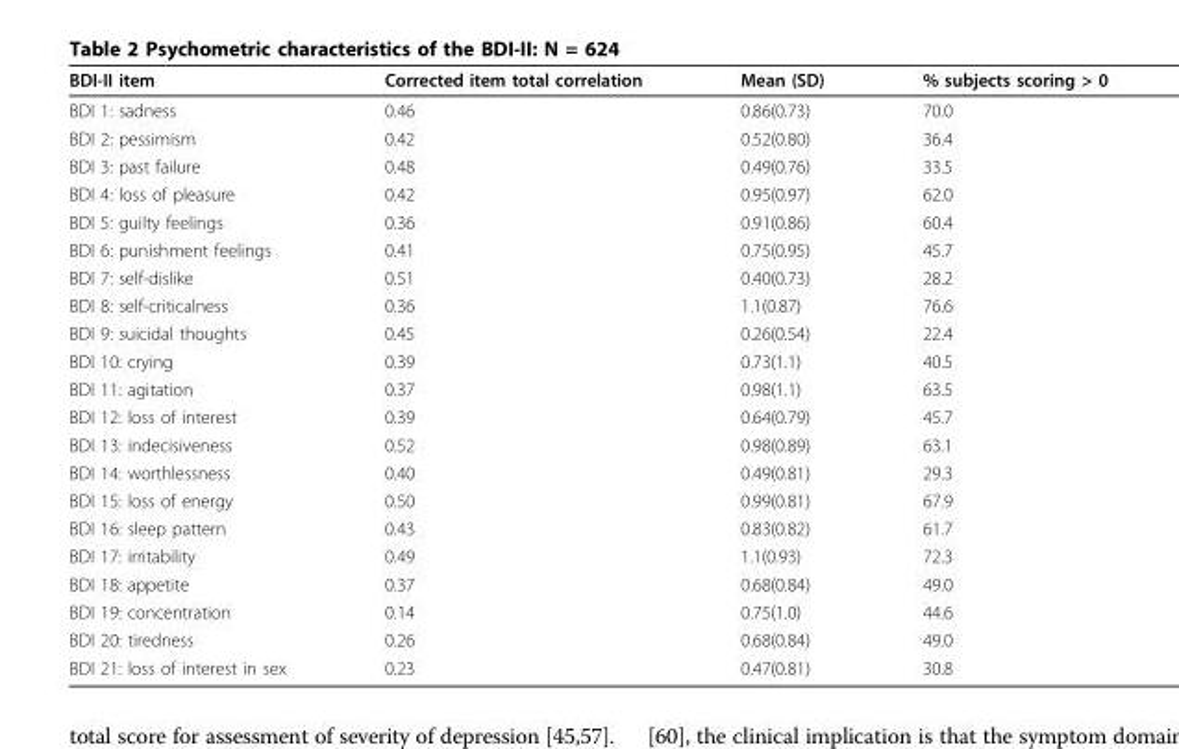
<table><thead><tr><td>BDI-II item</td><td>Corrected item total correlation</td><td>Mean (SD)</td><td>% subjects scoring &gt; 0</td></tr></thead><tbody><tr><td>BDI 1: sadness</td><td>0.46</td><td>0.86(0.73)</td><td>70.0</td></tr><tr><td>BDI 2: pessimism</td><td>0.42</td><td>0.52(0.80)</td><td>36.4</td></tr><tr><td>BDI 3: past failure</td><td>0.48</td><td>0.49(0.76)</td><td>33.5</td></tr><tr><td>BDI 4: loss of pleasure</td><td>0.42</td><td>0.95(0.97)</td><td>62.0</td></tr><tr><td>BDI 5: guilty feelings</td><td>0.36</td><td>0.91(0.86)</td><td>60.4</td></tr><tr><td>BDI 6: punishment feelings</td><td>0.41</td><td>0.75(0.95)</td><td>45.7</td></tr><tr><td>BDI 7: self-dislike</td><td>0.51</td><td>0.40(0.73)</td><td>28.2</td></tr><tr><td>BDI 8: self-criticalness</td><td>0.36</td><td>1.1(0.87)</td><td>76.6</td></tr><tr><td>BDI 9: suicidal thoughts</td><td>0.45</td><td>0.26(0.54)</td><td>22.4</td></tr><tr><td>BDI 10: crying</td><td>0.39</td><td>0.73(1.1)</td><td>40.5</td></tr><tr><td>BDI 11: agitation</td><td>0.37</td><td>0.98(1.1)</td><td>63.5</td></tr><tr><td>BDI 12: loss of interest</td><td>0.39</td><td>0.64(0.79)</td><td>45.7</td></tr><tr><td>BDI 13: indecisiveness</td><td>0.52</td><td>0.98(0.89)</td><td>63.1</td></tr><tr><td>BDI 14: worthlessness</td><td>0.40</td><td>0.49(0.81)</td><td>29.3</td></tr><tr><td>BDI 15: loss of energy</td><td>0.50</td><td>0.99(0.81)</td><td>67.9</td></tr><tr><td>BDI 16: sleep pattern</td><td>0.43</td><td>0.83(0.82)</td><td>61.7</td></tr><tr><td>BDI 17: irritability</td><td>0.49</td><td>1.1(0.93)</td><td>72.3</td></tr><tr><td>BDI 18: appetite</td><td>0.37</td><td>0.68(0.84)</td><td>49.0</td></tr><tr><td>BDI 19: concentration</td><td>0.14</td><td>0.75(1.0)</td><td>44.6</td></tr><tr><td>BDI 20: tiredness</td><td>0.26</td><td>0.68(0.84)</td><td>49.0</td></tr><tr><td>BDI 21: loss of interest in sex</td><td>0.23</td><td>0.47(0.81)</td><td>30.8</td></tr></tbody></table>